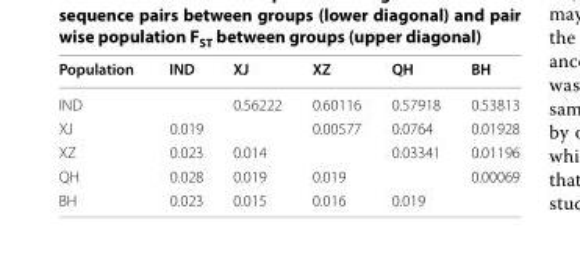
<table><thead><tr><td>Population</td><td>IND</td><td>XJ</td><td>XZ</td><td>QH</td><td>BH</td></tr></thead><tbody><tr><td>IND</td><td></td><td>0.56222</td><td>0.60116</td><td>0.57918</td><td>0.53813</td></tr><tr><td>XJ</td><td>0.019</td><td></td><td>0.00577</td><td>0.0764</td><td>0.01928</td></tr><tr><td>XZ</td><td>0.023</td><td>0.014</td><td></td><td>0.03341</td><td>0.01196</td></tr><tr><td>QH</td><td>0.028</td><td>0.019</td><td>0.019</td><td></td><td>0.00069</td></tr><tr><td>BH</td><td>0.023</td><td>0.015</td><td>0.016</td><td>0.019</td><td></td></tr></tbody></table>